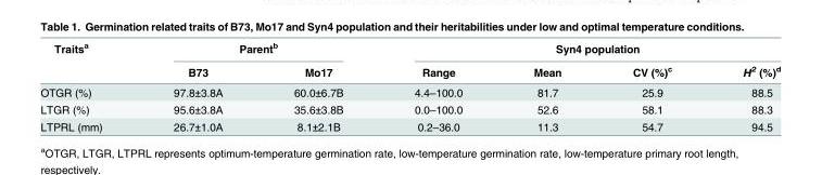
<table><thead><tr><td rowspan="2">Traits<sup>a</sup></td><td colspan="2">Parent<sup>b</sup></td><td colspan="4">Syn4 population</td></tr><tr><td>B73</td><td>Mo17</td><td>Range</td><td>Mean</td><td>CV (%)<sup>c</sup></td><td>H<sup>2</sup> (%)<sup>d</sup></td></tr></thead><tbody><tr><td>OTGR (%)</td><td>97.8±3.8A</td><td>60.0±6.7B</td><td>4.4–100.0</td><td>81.7</td><td>25.9</td><td>88.5</td></tr><tr><td>LTGR (%)</td><td>95.6±3.8A</td><td>35.6±3.8B</td><td>0.0–100.0</td><td>52.6</td><td>58.1</td><td>88.3</td></tr><tr><td>LTPRL (mm)</td><td>26.7±1.0A</td><td>8.1±2.1B</td><td>0.2–36.0</td><td>11.3</td><td>54.7</td><td>94.5</td></tr></tbody></table>